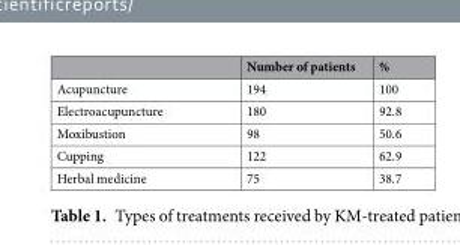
<table><thead><tr><td></td><td>Number of patients</td><td>%</td></tr></thead><tbody><tr><td>Acupuncture</td><td>194</td><td>100</td></tr><tr><td>Electroacupuncture</td><td>180</td><td>92.8</td></tr><tr><td>Moxibustion</td><td>98</td><td>50.6</td></tr><tr><td>Cupping</td><td>122</td><td>62.9</td></tr><tr><td>Herbal medicine</td><td>75</td><td>38.7</td></tr></tbody></table>